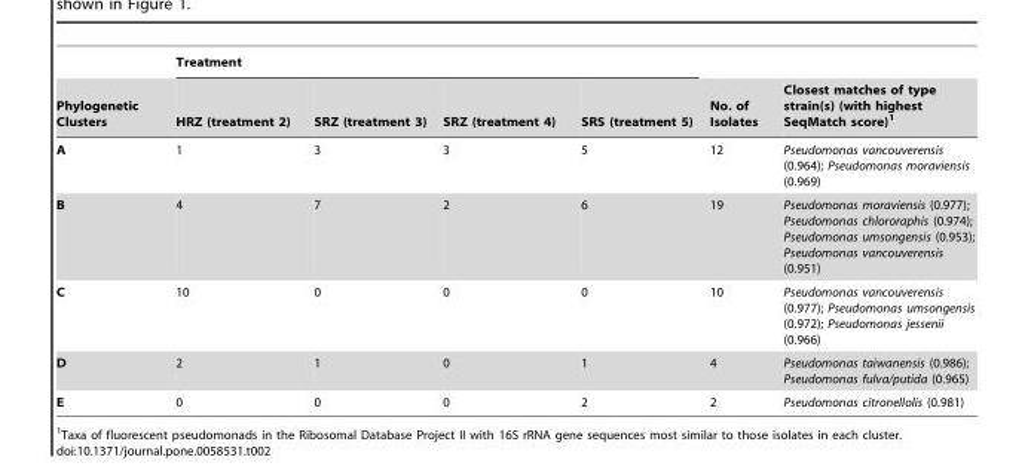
<table><thead><tr><td rowspan="2">Phylogenetic Clusters</td><td colspan="4">Treatment</td><td rowspan="2">No. of Isolates</td><td rowspan="2">Closest matches of type strain(s) (with highest SeqMatch score)<sup>1</sup></td></tr><tr><td>HRZ (treatment 2)</td><td>SRZ (treatment 3)</td><td>SRZ (treatment 4)</td><td>SRS (treatment 5)</td></tr></thead><tbody><tr><td>A</td><td>1</td><td>3</td><td>3</td><td>5</td><td>12</td><td>Pseudomonas vancouverensis (0.964); Pseudomonas moraviensis (0.969)</td></tr><tr><td>B</td><td>4</td><td>7</td><td>2</td><td>6</td><td>19</td><td>Pseudomonas moraviensis (0.977); Pseudomonas chlororaphis (0.974); Pseudomonas umsongensis (0.953); Pseudomonas vancouverensis (0.951)</td></tr><tr><td>C</td><td>10</td><td>0</td><td>0</td><td>0</td><td>10</td><td>Pseudomonas vancouverensis (0.977); Pseudomonas umsongensis (0.972); Pseudomonas jessenii (0.966)</td></tr><tr><td>D</td><td>2</td><td>1</td><td>0</td><td>1</td><td>4</td><td>Pseudomonas taiwanensis (0.986); Pseudomonas fulva/putida (0.965)</td></tr><tr><td>E</td><td>0</td><td>0</td><td>0</td><td>2</td><td>2</td><td>Pseudomonas citronellolis (0.981)</td></tr></tbody></table>